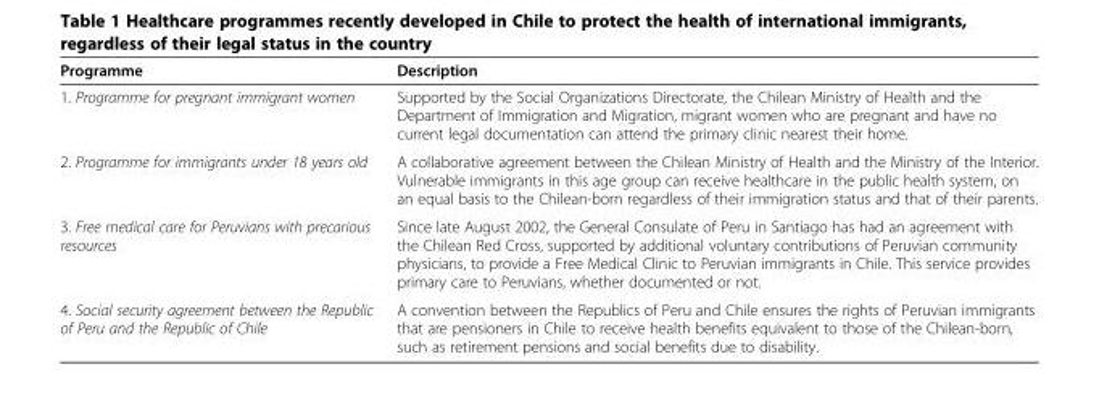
<table><thead><tr><td>Programme</td><td>Description</td></tr></thead><tbody><tr><td>1. Programme for pregnant immigrant women</td><td>Supported by the Social Organizations Directorate, the Chilean Ministry of Health and the Department of Immigration and Migration, migrant women who are pregnant and have no current legal documentation can attend the primary clinic nearest their home.</td></tr><tr><td>2. Programme for immigrants under 18 years old</td><td>A collaborative agreement between the Chilean Ministry of Health and the Ministry of the Interior. Vulnerable immigrants in this age group can receive healthcare in the public health system, on an equal basis to the Chilean-born regardless of their immigration status and that of their parents.</td></tr><tr><td>3. Free medical care for Peruvians with precarious resources</td><td>Since late August 2002, the General Consulate of Peru in Santiago has had an agreement with the Chilean Red Cross, supported by additional voluntary contributions of Peruvian community physicians, to provide a Free Medical Clinic to Peruvian immigrants in Chile. This service provides primary care to Peruvians, whether documented or not.</td></tr><tr><td>4. Social security agreement between the Republic of Peru and the Republic of Chile</td><td>A convention between the Republics of Peru and Chile ensures the rights of Peruvian immigrants that are pensioners in Chile to receive health benefits equivalent to those of the Chilean-born, such as retirement pensions and social benefits due to disability.</td></tr></tbody></table>